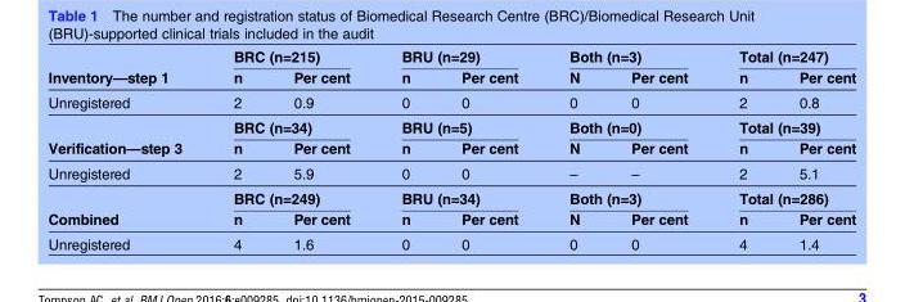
<table><thead><tr><td rowspan="2">Inventory—step 1</td><td colspan="2">BRC (n=215)</td><td colspan="2">BRU (n=29)</td><td colspan="2">Both (n=3)</td><td colspan="2">Total (n=247)</td></tr><tr><td>n</td><td>Per cent</td><td>n</td><td>Per cent</td><td>N</td><td>Per cent</td><td>n</td><td>Per cent</td></tr></thead><tbody><tr><td>Unregistered</td><td>2</td><td>0.9</td><td>0</td><td>0</td><td>0</td><td>0</td><td>2</td><td>0.8</td></tr><tr><td rowspan="2">Verification—step 3</td><td colspan="2">BRC (n=34)</td><td colspan="2">BRU (n=5)</td><td colspan="2">Both (n=0)</td><td colspan="2">Total (n=39)</td></tr><tr><td>n</td><td>Per cent</td><td>n</td><td>Per cent</td><td>N</td><td>Per cent</td><td>n</td><td>Per cent</td></tr><tr><td>Unregistered</td><td>2</td><td>5.9</td><td>0</td><td>0</td><td>–</td><td>–</td><td>2</td><td>5.1</td></tr><tr><td rowspan="2">Combined</td><td colspan="2">BRC (n=249)</td><td colspan="2">BRU (n=34)</td><td colspan="2">Both (n=3)</td><td colspan="2">Total (n=286)</td></tr><tr><td>n</td><td>Per cent</td><td>n</td><td>Per cent</td><td>N</td><td>Per cent</td><td>n</td><td>Per cent</td></tr><tr><td>Unregistered</td><td>4</td><td>1.6</td><td>0</td><td>0</td><td>0</td><td>0</td><td>4</td><td>1.4</td></tr></tbody></table>